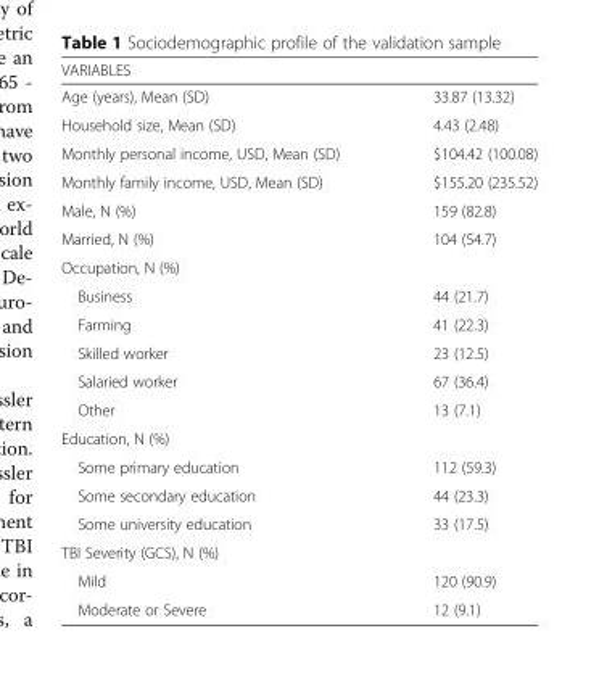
<table><thead><tr><td colspan="2">VARIABLES</td></tr><tr><td>Age (years), Mean (SD)</td><td>33.87 (13.32)</td></tr></thead><tbody><tr><td>Household size, Mean (SD)</td><td>4.43 (2.48)</td></tr><tr><td>Monthly personal income, USD, Mean (SD)</td><td>$104.42 (100.08)</td></tr><tr><td>Monthly family income, USD, Mean (SD)</td><td>$155.20 (235.52)</td></tr><tr><td>Male, N (%)</td><td>159 (82.8)</td></tr><tr><td>Married, N (%)</td><td>104 (54.7)</td></tr><tr><td colspan="2">Occupation, N (%)</td></tr><tr><td>Business</td><td>44 (21.7)</td></tr><tr><td>Farming</td><td>41 (22.3)</td></tr><tr><td>Skilled worker</td><td>23 (12.5)</td></tr><tr><td>Salaried worker</td><td>67 (36.4)</td></tr><tr><td>Other</td><td>13 (7.1)</td></tr><tr><td colspan="2">Education, N (%)</td></tr><tr><td>Some primary education</td><td>112 (59.3)</td></tr><tr><td>Some secondary education</td><td>44 (23.3)</td></tr><tr><td>Some university education</td><td>33 (17.5)</td></tr><tr><td colspan="2">TBI Severity (GCS), N (%)</td></tr><tr><td>Mild</td><td>120 (90.9)</td></tr><tr><td>Moderate or Severe</td><td>12 (9.1)</td></tr></tbody></table>